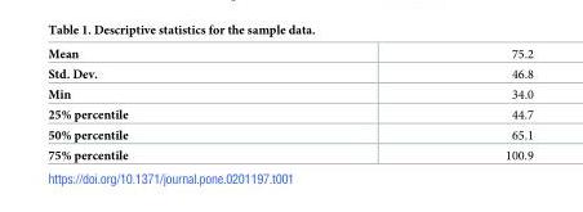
<table><tbody><tr><td>Mean</td><td>75.2</td></tr><tr><td>Std. Dev.</td><td>46.8</td></tr><tr><td>Min</td><td>34.0</td></tr><tr><td>25% percentile</td><td>44.7</td></tr><tr><td>50% percentile</td><td>65.1</td></tr><tr><td>75% percentile</td><td>100.9</td></tr></tbody></table>